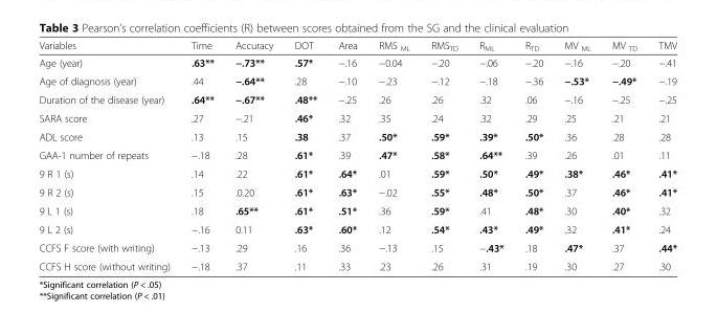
<table><thead><tr><td>Variables</td><td>Time</td><td>Accuracy</td><td>DOT</td><td>Area</td><td>RMS <sub>ML</sub></td><td>RMS<sub>TD</sub></td><td>R<sub>ML</sub></td><td>R<sub>TD</sub></td><td>MV <sub>ML</sub></td><td>MV <sub>TD</sub></td><td>TMV</td></tr></thead><tbody><tr><td>Age (year)</td><td>.63**</td><td>−.73**</td><td>.57*</td><td>−.16</td><td>−0.04</td><td>−.20</td><td>−.06</td><td>−.20</td><td>−.16</td><td>−.20</td><td>−.41</td></tr><tr><td>Age of diagnosis (year)</td><td>.44</td><td>−.64**</td><td>.28</td><td>−.10</td><td>−.23</td><td>−.12</td><td>−.18</td><td>−.36</td><td>−.53*</td><td>−.49*</td><td>−.19</td></tr><tr><td>Duration of the disease (year)</td><td>.64**</td><td>−.67**</td><td>.48**</td><td>−.25</td><td>.26</td><td>.26</td><td>.32</td><td>.06</td><td>−.16</td><td>−.25</td><td>−.25</td></tr><tr><td>SARA score</td><td>.27</td><td>−.21</td><td>.46*</td><td>.32</td><td>.35</td><td>.24</td><td>.32</td><td>.29</td><td>.25</td><td>.21</td><td>.21</td></tr><tr><td>ADL score</td><td>.13</td><td>.15</td><td>.38</td><td>.37</td><td>.50*</td><td>.59*</td><td>.39*</td><td>.50*</td><td>.36</td><td>.28</td><td>.28</td></tr><tr><td>GAA-1 number of repeats</td><td>−.18</td><td>.28</td><td>.61*</td><td>.39</td><td>.47*</td><td>.58*</td><td>.64**</td><td>.39</td><td>.26</td><td>.01</td><td>.11</td></tr><tr><td>9 R 1 (s)</td><td>.14</td><td>.22</td><td>.61*</td><td>.64*</td><td>.01</td><td>.59*</td><td>.50*</td><td>.49*</td><td>.38*</td><td>.46*</td><td>.41*</td></tr><tr><td>9 R 2 (s)</td><td>.15</td><td>.0.20</td><td>.61*</td><td>.63*</td><td>−.02</td><td>.55*</td><td>.48*</td><td>.50*</td><td>.37</td><td>.46*</td><td>.41*</td></tr><tr><td>9 L 1 (s)</td><td>.18</td><td>.65**</td><td>.61*</td><td>.51*</td><td>.36</td><td>.59*</td><td>.41</td><td>.48*</td><td>.30</td><td>.40*</td><td>.32</td></tr><tr><td>9 L 2 (s)</td><td>−.16</td><td>0.11</td><td>.63*</td><td>.60*</td><td>.12</td><td>.54*</td><td>.43*</td><td>.49*</td><td>.32</td><td>.41*</td><td>.24</td></tr><tr><td>CCFS F score (with writing)</td><td>−.13</td><td>.29</td><td>.16</td><td>.36</td><td>−.13</td><td>.15</td><td>−.43*</td><td>.18</td><td>.47*</td><td>.37</td><td>.44*</td></tr><tr><td>CCFS H score (without writing)</td><td>−.18</td><td>.37</td><td>.11</td><td>.33</td><td>.23</td><td>.26</td><td>.31</td><td>.19</td><td>.30</td><td>.27</td><td>.30</td></tr></tbody></table>